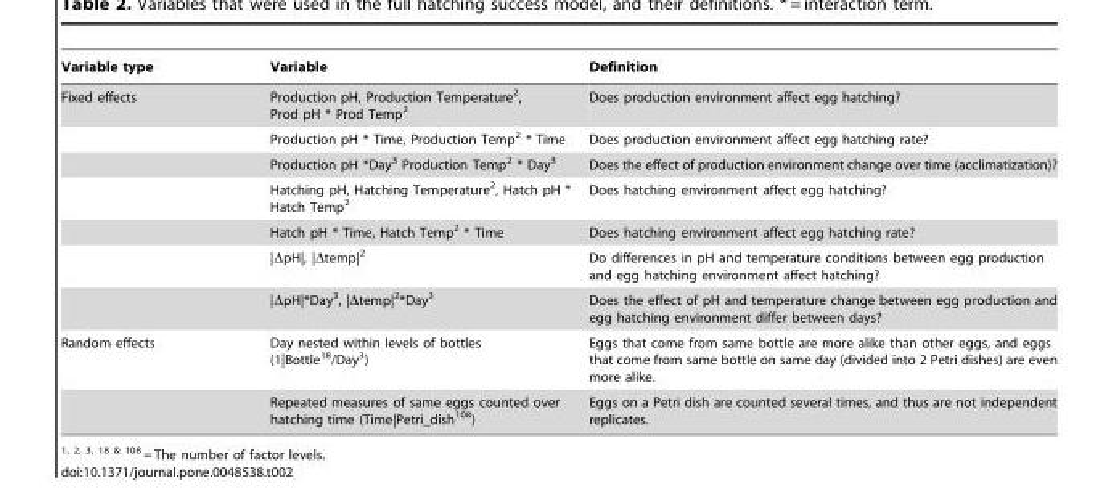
<table><thead><tr><td>Variable type</td><td>Variable</td><td>Definition</td></tr></thead><tbody><tr><td rowspan="7">Fixed effects</td><td>Production pH, Production Temperature<sup>2</sup>, Prod pH * Prod Temp<sup>2</sup></td><td>Does production environment affect egg hatching?</td></tr><tr><td>Production pH * Time, Production Temp<sup>2</sup> * Time</td><td>Does production environment affect egg hatching rate?</td></tr><tr><td>Production pH *Day<sup>3</sup> Production Temp<sup>2</sup> * Day<sup>3</sup></td><td>Does the effect of production environment change over time (acclimatization)?</td></tr><tr><td>Hatching pH, Hatching Temperature<sup>2</sup>, Hatch pH * Hatch Temp<sup>2</sup></td><td>Does hatching environment affect egg hatching?</td></tr><tr><td>Hatch pH * Time, Hatch Temp<sup>2</sup> * Time</td><td>Does hatching environment affect egg hatching rate?</td></tr><tr><td>|ΔpH|, |Δtemp|<sup>2</sup></td><td>Do differences in pH and temperature conditions between egg production and egg hatching environment affect hatching?</td></tr><tr><td>|ΔpH|*Day<sup>3</sup>, |Δtemp|<sup>2</sup>*Day<sup>3</sup></td><td>Does the effect of pH and temperature change between egg production and egg hatching environment differ between days?</td></tr><tr><td rowspan="2">Random effects</td><td>Day nested within levels of bottles (1|Bottle<sup>18</sup>/Day<sup>3</sup>)</td><td>Eggs that come from same bottle are more alike than other eggs, and eggs that come from same bottle on same day (divided into 2 Petri dishes) are even more alike.</td></tr><tr><td>Repeated measures of same eggs counted over hatching time (Time|Petri_dish<sup>108</sup>)</td><td>Eggs on a Petri dish are counted several times, and thus are not independent replicates.</td></tr></tbody></table>